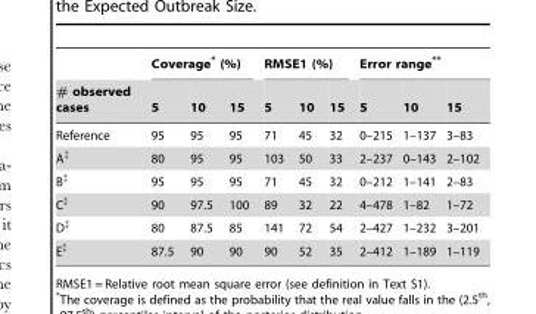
<table><thead><tr><td rowspan="2"># observed cases</td><td colspan="3">Coverage* (%)</td><td colspan="3">RMSE1 (%)</td><td colspan="3">Error range**</td></tr><tr><td>5</td><td>10</td><td>15</td><td>5</td><td>10</td><td>15</td><td>5</td><td>10</td><td>15</td></tr></thead><tbody><tr><td>Reference</td><td>95</td><td>95</td><td>95</td><td>71</td><td>45</td><td>32</td><td>0–215</td><td>1–137</td><td>3–83</td></tr><tr><td>A‡</td><td>80</td><td>95</td><td>95</td><td>103</td><td>50</td><td>33</td><td>2–237</td><td>0–143</td><td>2–102</td></tr><tr><td>B‡</td><td>95</td><td>95</td><td>95</td><td>71</td><td>45</td><td>32</td><td>0–212</td><td>1–141</td><td>2–83</td></tr><tr><td>C‡</td><td>90</td><td>97.5</td><td>100</td><td>89</td><td>32</td><td>22</td><td>4–478</td><td>1–82</td><td>1–72</td></tr><tr><td>D‡</td><td>80</td><td>87.5</td><td>85</td><td>141</td><td>72</td><td>54</td><td>2–427</td><td>1–232</td><td>3–201</td></tr><tr><td>E‡</td><td>87.5</td><td>90</td><td>90</td><td>90</td><td>52</td><td>35</td><td>2–412</td><td>1–189</td><td>1–119</td></tr></tbody></table>